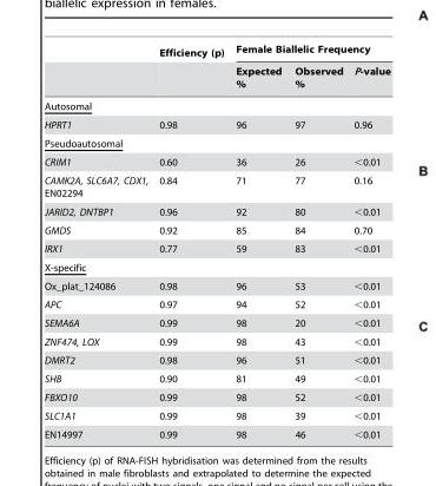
<table><thead><tr><td rowspan="2"></td><td rowspan="2">Efficiency (p)</td><td colspan="3">Female Biallelic Frequency</td></tr><tr><td>Expected %</td><td>Observed %</td><td>P-value</td></tr></thead><tbody><tr><td colspan="5">Autosomal</td></tr><tr><td>HPRT1</td><td>0.98</td><td>96</td><td>97</td><td>0.96</td></tr><tr><td colspan="5">Pseudoautosomal</td></tr><tr><td>CRIM1</td><td>0.60</td><td>36</td><td>26</td><td>&lt;0.01</td></tr><tr><td>CAMK2A, SLC6A7, CDX1, EN02294</td><td>0.84</td><td>71</td><td>77</td><td>0.16</td></tr><tr><td>JARID2, DNTBP1</td><td>0.96</td><td>92</td><td>80</td><td>&lt;0.01</td></tr><tr><td>GMDS</td><td>0.92</td><td>85</td><td>84</td><td>0.70</td></tr><tr><td>IRX1</td><td>0.77</td><td>59</td><td>83</td><td>&lt;0.01</td></tr><tr><td colspan="5">X-specific</td></tr><tr><td>Ox_plat_124086</td><td>0.98</td><td>96</td><td>53</td><td>&lt;0.01</td></tr><tr><td>APC</td><td>0.97</td><td>94</td><td>52</td><td>&lt;0.01</td></tr><tr><td>SEMA6A</td><td>0.99</td><td>98</td><td>20</td><td>&lt;0.01</td></tr><tr><td>ZNF474, LOX</td><td>0.99</td><td>98</td><td>43</td><td>&lt;0.01</td></tr><tr><td>DMRT2</td><td>0.98</td><td>96</td><td>51</td><td>&lt;0.01</td></tr><tr><td>SHB</td><td>0.90</td><td>81</td><td>49</td><td>&lt;0.01</td></tr><tr><td>FBXO10</td><td>0.99</td><td>98</td><td>52</td><td>&lt;0.01</td></tr><tr><td>SLC1A1</td><td>0.99</td><td>98</td><td>39</td><td>&lt;0.01</td></tr><tr><td>EN14997</td><td>0.99</td><td>98</td><td>46</td><td>&lt;0.01</td></tr></tbody></table>